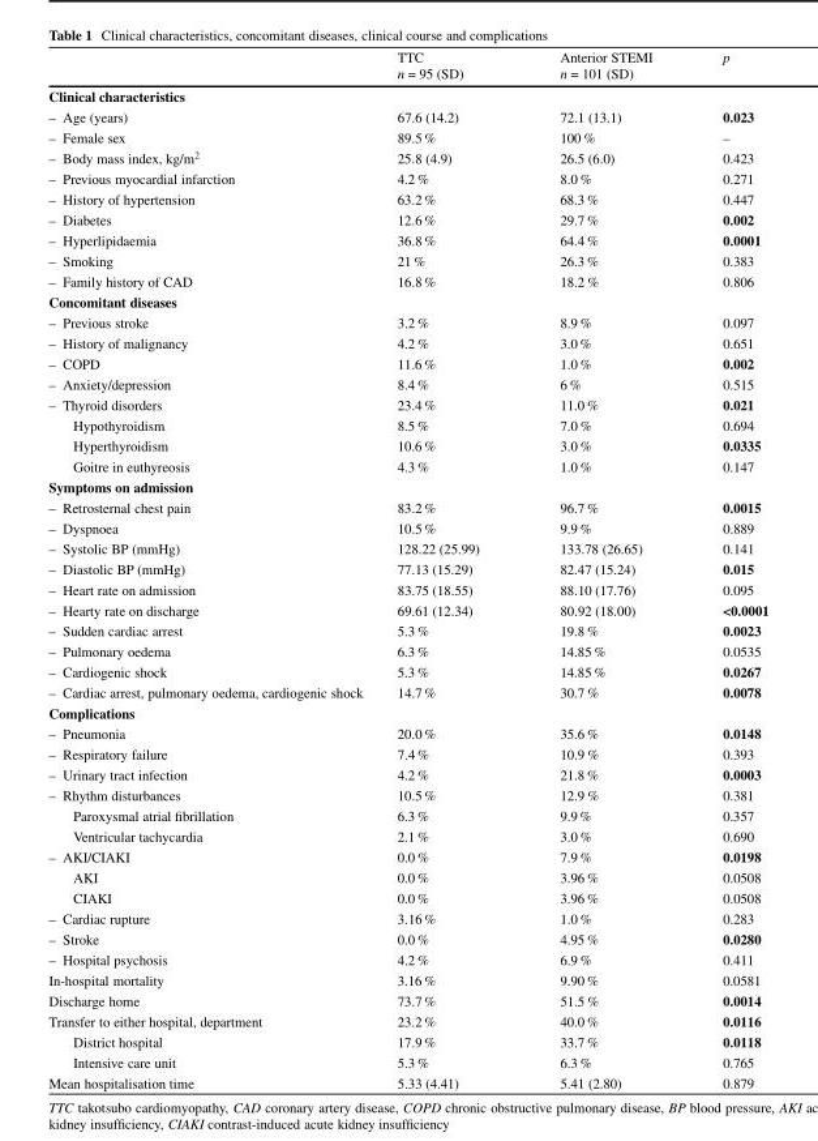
<table><thead><tr><td></td><td>TTC n = 95 (SD)</td><td>Anterior STEMI n = 101 (SD)</td><td>p</td></tr></thead><tbody><tr><td colspan="4">Clinical characteristics</td></tr><tr><td>– Age (years)</td><td>67.6 (14.2)</td><td>72.1 (13.1)</td><td>0.023</td></tr><tr><td>– Female sex</td><td>89.5 %</td><td>100 %</td><td>–</td></tr><tr><td>– Body mass index, kg/m<sup>2</sup></td><td>25.8 (4.9)</td><td>26.5 (6.0)</td><td>0.423</td></tr><tr><td>– Previous myocardial infarction</td><td>4.2 %</td><td>8.0 %</td><td>0.271</td></tr><tr><td>– History of hypertension</td><td>63.2 %</td><td>68.3 %</td><td>0.447</td></tr><tr><td>– Diabetes</td><td>12.6 %</td><td>29.7 %</td><td>0.002</td></tr><tr><td>– Hyperlipidaemia</td><td>36.8 %</td><td>64.4 %</td><td>0.0001</td></tr><tr><td>– Smoking</td><td>21 %</td><td>26.3 %</td><td>0.383</td></tr><tr><td>– Family history of CAD</td><td>16.8 %</td><td>18.2 %</td><td>0.806</td></tr><tr><td colspan="4">Concomitant diseases</td></tr><tr><td>– Previous stroke</td><td>3.2 %</td><td>8.9 %</td><td>0.097</td></tr><tr><td>– History of malignancy</td><td>4.2 %</td><td>3.0 %</td><td>0.651</td></tr><tr><td>– COPD</td><td>11.6 %</td><td>1.0 %</td><td>0.002</td></tr><tr><td>– Anxiety/depression</td><td>8.4 %</td><td>6 %</td><td>0.515</td></tr><tr><td>– Thyroid disorders</td><td>23.4 %</td><td>11.0 %</td><td>0.021</td></tr><tr><td>Hypothyroidism</td><td>8.5 %</td><td>7.0 %</td><td>0.694</td></tr><tr><td>Hyperthyroidism</td><td>10.6 %</td><td>3.0 %</td><td>0.0335</td></tr><tr><td>Goitre in euthyreosis</td><td>4.3 %</td><td>1.0 %</td><td>0.147</td></tr><tr><td colspan="4">Symptoms on admission</td></tr><tr><td>– Retrosternal chest pain</td><td>83.2 %</td><td>96.7 %</td><td>0.0015</td></tr><tr><td>– Dyspnoea</td><td>10.5 %</td><td>9.9 %</td><td>0.889</td></tr><tr><td>– Systolic BP (mmHg)</td><td>128.22 (25.99)</td><td>133.78 (26.65)</td><td>0.141</td></tr><tr><td>– Diastolic BP (mmHg)</td><td>77.13 (15.29)</td><td>82.47 (15.24)</td><td>0.015</td></tr><tr><td>– Heart rate on admission</td><td>83.75 (18.55)</td><td>88.10 (17.76)</td><td>0.095</td></tr><tr><td>– Hearty rate on discharge</td><td>69.61 (12.34)</td><td>80.92 (18.00)</td><td>&lt;0.0001</td></tr><tr><td>– Sudden cardiac arrest</td><td>5.3 %</td><td>19.8 %</td><td>0.0023</td></tr><tr><td>– Pulmonary oedema</td><td>6.3 %</td><td>14.85 %</td><td>0.0535</td></tr><tr><td>– Cardiogenic shock</td><td>5.3 %</td><td>14.85 %</td><td>0.0267</td></tr><tr><td>– Cardiac arrest, pulmonary oedema, cardiogenic shock</td><td>14.7 %</td><td>30.7 %</td><td>0.0078</td></tr><tr><td colspan="4">Complications</td></tr><tr><td>– Pneumonia</td><td>20.0 %</td><td>35.6 %</td><td>0.0148</td></tr><tr><td>– Respiratory failure</td><td>7.4 %</td><td>10.9 %</td><td>0.393</td></tr><tr><td>– Urinary tract infection</td><td>4.2 %</td><td>21.8 %</td><td>0.0003</td></tr><tr><td>– Rhythm disturbances</td><td>10.5 %</td><td>12.9 %</td><td>0.381</td></tr><tr><td>Paroxysmal atrial fibrillation</td><td>6.3 %</td><td>9.9 %</td><td>0.357</td></tr><tr><td>Ventricular tachycardia</td><td>2.1 %</td><td>3.0 %</td><td>0.690</td></tr><tr><td>– AKI/CIAKI</td><td>0.0 %</td><td>7.9 %</td><td>0.0198</td></tr><tr><td>AKI</td><td>0.0 %</td><td>3.96 %</td><td>0.0508</td></tr><tr><td>CIAKI</td><td>0.0 %</td><td>3.96 %</td><td>0.0508</td></tr><tr><td>– Cardiac rupture</td><td>3.16 %</td><td>1.0 %</td><td>0.283</td></tr><tr><td>– Stroke</td><td>0.0 %</td><td>4.95 %</td><td>0.0280</td></tr><tr><td>– Hospital psychosis</td><td>4.2 %</td><td>6.9 %</td><td>0.411</td></tr><tr><td>In-hospital mortality</td><td>3.16 %</td><td>9.90 %</td><td>0.0581</td></tr><tr><td>Discharge home</td><td>73.7 %</td><td>51.5 %</td><td>0.0014</td></tr><tr><td>Transfer to either hospital, department</td><td>23.2 %</td><td>40.0 %</td><td>0.0116</td></tr><tr><td>District hospital</td><td>17.9 %</td><td>33.7 %</td><td>0.0118</td></tr><tr><td>Intensive care unit</td><td>5.3 %</td><td>6.3 %</td><td>0.765</td></tr><tr><td>Mean hospitalisation time</td><td>5.33 (4.41)</td><td>5.41 (2.80)</td><td>0.879</td></tr></tbody></table>